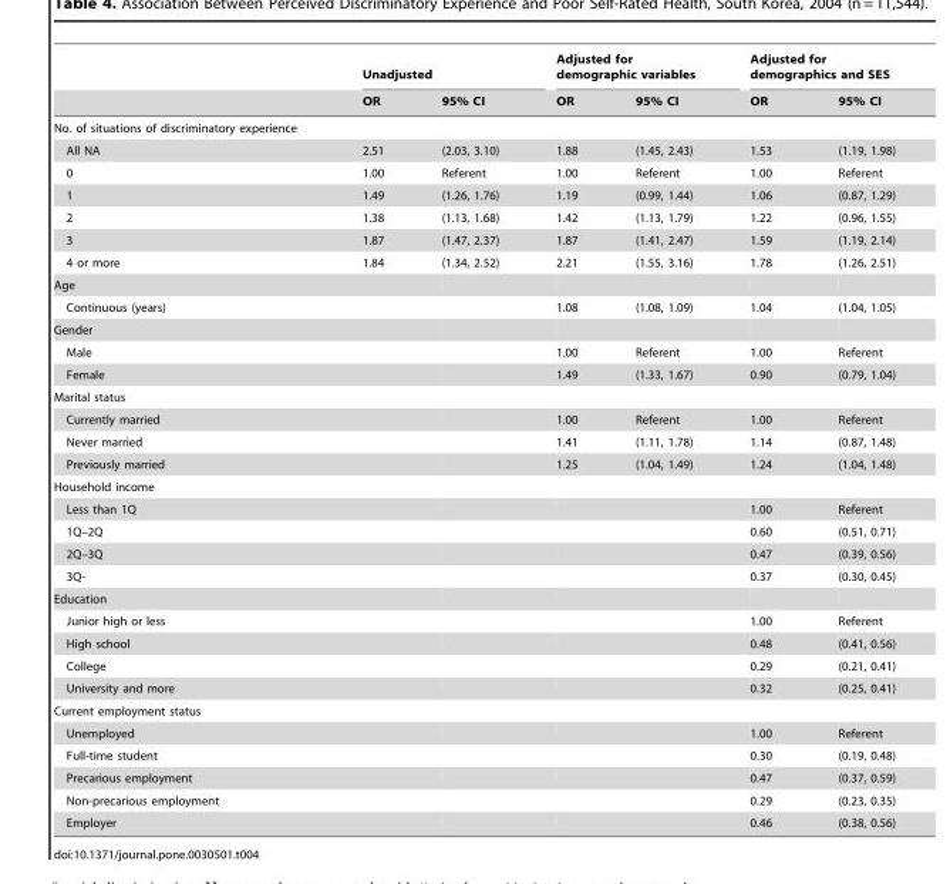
<table><thead><tr><td rowspan="2"></td><td colspan="2">Unadjusted</td><td colspan="2">Adjusted for demographic variables</td><td colspan="2">Adjusted for demographics and SES</td></tr><tr><td>OR</td><td>95% CI</td><td>OR</td><td>95% CI</td><td>OR</td><td>95% CI</td></tr></thead><tbody><tr><td colspan="7">No. of situations of discriminatory experience</td></tr><tr><td>All NA</td><td>2.51</td><td>(2.03, 3.10)</td><td>1.88</td><td>(1.45, 2.43)</td><td>1.53</td><td>(1.19, 1.98)</td></tr><tr><td>0</td><td>1.00</td><td>Referent</td><td>1.00</td><td>Referent</td><td>1.00</td><td>Referent</td></tr><tr><td>1</td><td>1.49</td><td>(1.26, 1.76)</td><td>1.19</td><td>(0.99, 1.44)</td><td>1.06</td><td>(0.87, 1.29)</td></tr><tr><td>2</td><td>1.38</td><td>(1.13, 1.68)</td><td>1.42</td><td>(1.13, 1.79)</td><td>1.22</td><td>(0.96, 1.55)</td></tr><tr><td>3</td><td>1.87</td><td>(1.47, 2.37)</td><td>1.87</td><td>(1.41, 2.47)</td><td>1.59</td><td>(1.19, 2.14)</td></tr><tr><td>4 or more</td><td>1.84</td><td>(1.34, 2.52)</td><td>2.21</td><td>(1.55, 3.16)</td><td>1.78</td><td>(1.26, 2.51)</td></tr><tr><td colspan="7">Age</td></tr><tr><td>Continuous (years)</td><td></td><td></td><td>1.08</td><td>(1.08, 1.09)</td><td>1.04</td><td>(1.04, 1.05)</td></tr><tr><td colspan="7">Gender</td></tr><tr><td>Male</td><td></td><td></td><td>1.00</td><td>Referent</td><td>1.00</td><td>Referent</td></tr><tr><td>Female</td><td></td><td></td><td>1.49</td><td>(1.33, 1.67)</td><td>0.90</td><td>(0.79, 1.04)</td></tr><tr><td colspan="7">Marital status</td></tr><tr><td>Currently married</td><td></td><td></td><td>1.00</td><td>Referent</td><td>1.00</td><td>Referent</td></tr><tr><td>Never married</td><td></td><td></td><td>1.41</td><td>(1.11, 1.78)</td><td>1.14</td><td>(0.87, 1.48)</td></tr><tr><td>Previously married</td><td></td><td></td><td>1.25</td><td>(1.04, 1.49)</td><td>1.24</td><td>(1.04, 1.48)</td></tr><tr><td colspan="7">Household income</td></tr><tr><td>Less than 1Q</td><td></td><td></td><td></td><td></td><td>1.00</td><td>Referent</td></tr><tr><td>1Q–2Q</td><td></td><td></td><td></td><td></td><td>0.60</td><td>(0.51, 0.71)</td></tr><tr><td>2Q–3Q</td><td></td><td></td><td></td><td></td><td>0.47</td><td>(0.39, 0.56)</td></tr><tr><td>3Q-</td><td></td><td></td><td></td><td></td><td>0.37</td><td>(0.30, 0.45)</td></tr><tr><td colspan="7">Education</td></tr><tr><td>Junior high or less</td><td></td><td></td><td></td><td></td><td>1.00</td><td>Referent</td></tr><tr><td>High school</td><td></td><td></td><td></td><td></td><td>0.48</td><td>(0.41, 0.56)</td></tr><tr><td>College</td><td></td><td></td><td></td><td></td><td>0.29</td><td>(0.21, 0.41)</td></tr><tr><td>University and more</td><td></td><td></td><td></td><td></td><td>0.32</td><td>(0.25, 0.41)</td></tr><tr><td colspan="7">Current employment status</td></tr><tr><td>Unemployed</td><td></td><td></td><td></td><td></td><td>1.00</td><td>Referent</td></tr><tr><td>Full-time student</td><td></td><td></td><td></td><td></td><td>0.30</td><td>(0.19, 0.48)</td></tr><tr><td>Precarious employment</td><td></td><td></td><td></td><td></td><td>0.47</td><td>(0.37, 0.59)</td></tr><tr><td>Non-precarious employment</td><td></td><td></td><td></td><td></td><td>0.29</td><td>(0.23, 0.35)</td></tr><tr><td>Employer</td><td></td><td></td><td></td><td></td><td>0.46</td><td>(0.38, 0.56)</td></tr></tbody></table>